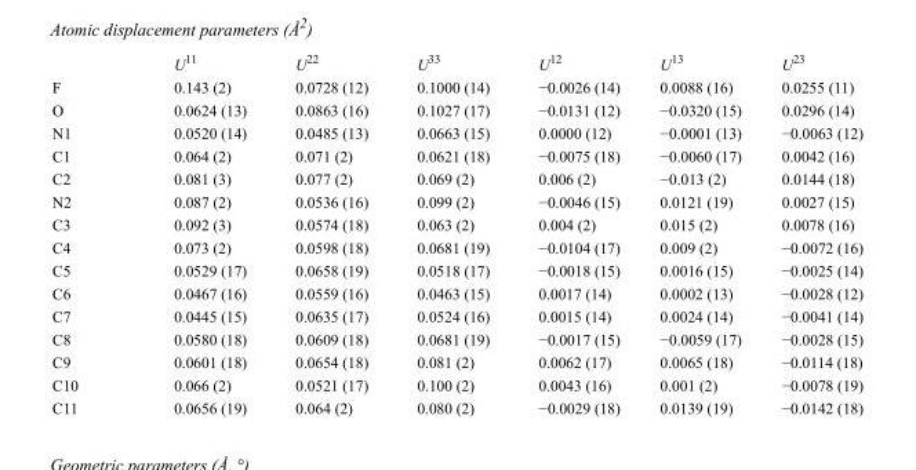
<table><thead><tr><td></td><td>U<sup>11</sup></td><td>U<sup>22</sup></td><td>U<sup>33</sup></td><td>U<sup>12</sup></td><td>U<sup>13</sup></td><td>U<sup>23</sup></td></tr></thead><tbody><tr><td>F</td><td>0.143 (2)</td><td>0.0728 (12)</td><td>0.1000 (14)</td><td>−0.0026 (14)</td><td>0.0088 (16)</td><td>0.0255 (11)</td></tr><tr><td>O</td><td>0.0624 (13)</td><td>0.0863 (16)</td><td>0.1027 (17)</td><td>−0.0131 (12)</td><td>−0.0320 (15)</td><td>0.0296 (14)</td></tr><tr><td>N1</td><td>0.0520 (14)</td><td>0.0485 (13)</td><td>0.0663 (15)</td><td>0.0000 (12)</td><td>−0.0001 (13)</td><td>−0.0063 (12)</td></tr><tr><td>C1</td><td>0.064 (2)</td><td>0.071 (2)</td><td>0.0621 (18)</td><td>−0.0075 (18)</td><td>−0.0060 (17)</td><td>0.0042 (16)</td></tr><tr><td>C2</td><td>0.081 (3)</td><td>0.077 (2)</td><td>0.069 (2)</td><td>0.006 (2)</td><td>−0.013 (2)</td><td>0.0144 (18)</td></tr><tr><td>N2</td><td>0.087 (2)</td><td>0.0536 (16)</td><td>0.099 (2)</td><td>−0.0046 (15)</td><td>0.0121 (19)</td><td>0.0027 (15)</td></tr><tr><td>C3</td><td>0.092 (3)</td><td>0.0574 (18)</td><td>0.063 (2)</td><td>0.004 (2)</td><td>0.015 (2)</td><td>0.0078 (16)</td></tr><tr><td>C4</td><td>0.073 (2)</td><td>0.0598 (18)</td><td>0.0681 (19)</td><td>−0.0104 (17)</td><td>0.009 (2)</td><td>−0.0072 (16)</td></tr><tr><td>C5</td><td>0.0529 (17)</td><td>0.0658 (19)</td><td>0.0518 (17)</td><td>−0.0018 (15)</td><td>0.0016 (15)</td><td>−0.0025 (14)</td></tr><tr><td>C6</td><td>0.0467 (16)</td><td>0.0559 (16)</td><td>0.0463 (15)</td><td>0.0017 (14)</td><td>0.0002 (13)</td><td>−0.0028 (12)</td></tr><tr><td>C7</td><td>0.0445 (15)</td><td>0.0635 (17)</td><td>0.0524 (16)</td><td>0.0015 (14)</td><td>0.0024 (14)</td><td>−0.0041 (14)</td></tr><tr><td>C8</td><td>0.0580 (18)</td><td>0.0609 (18)</td><td>0.0681 (19)</td><td>−0.0017 (15)</td><td>−0.0059 (17)</td><td>−0.0028 (15)</td></tr><tr><td>C9</td><td>0.0601 (18)</td><td>0.0654 (18)</td><td>0.081 (2)</td><td>0.0062 (17)</td><td>0.0065 (18)</td><td>−0.0114 (18)</td></tr><tr><td>C10</td><td>0.066 (2)</td><td>0.0521 (17)</td><td>0.100 (2)</td><td>0.0043 (16)</td><td>0.001 (2)</td><td>−0.0078 (19)</td></tr><tr><td>C11</td><td>0.0656 (19)</td><td>0.064 (2)</td><td>0.080 (2)</td><td>−0.0029 (18)</td><td>0.0139 (19)</td><td>−0.0142 (18)</td></tr></tbody></table>